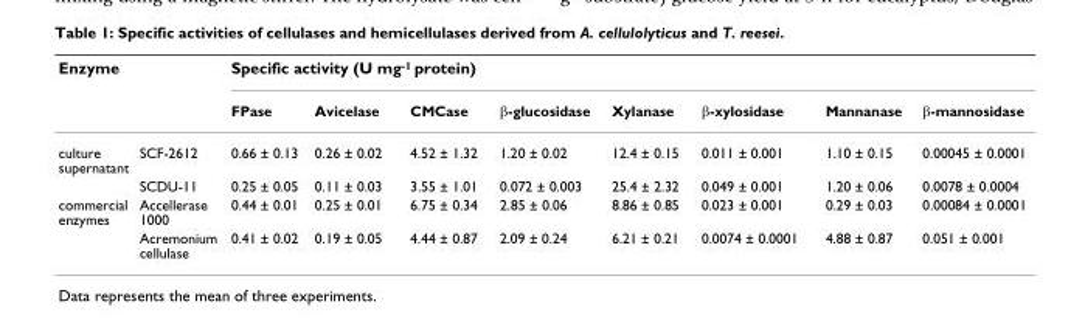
<table><thead><tr><td rowspan="2">Enzyme</td><td rowspan="2"></td><td colspan="8">Specific activity (U mg<sup>-1</sup> protein)</td></tr><tr><td>FPase</td><td>Avicelase</td><td>CMCase</td><td>β-glucosidase</td><td>Xylanase</td><td>β-xylosidase</td><td>Mannanase</td><td>β-mannosidase</td></tr></thead><tbody><tr><td rowspan="2">culture supernatant</td><td>SCF-2612</td><td>0.66 ± 0.13</td><td>0.26 ± 0.02</td><td>4.52 ± 1.32</td><td>1.20 ± 0.02</td><td>12.4 ± 0.15</td><td>0.011 ± 0.001</td><td>1.10 ± 0.15</td><td>0.00045 ± 0.0001</td></tr><tr><td>SCDU-11</td><td>0.25 ± 0.05</td><td>0.11 ± 0.03</td><td>3.55 ± 1.01</td><td>0.072 ± 0.003</td><td>25.4 ± 2.32</td><td>0.049 ± 0.001</td><td>1.20 ± 0.06</td><td>0.0078 ± 0.0004</td></tr><tr><td rowspan="2">commercial enzymes</td><td>Accellerase 1000</td><td>0.44 ± 0.01</td><td>0.25 ± 0.01</td><td>6.75 ± 0.34</td><td>2.85 ± 0.06</td><td>8.86 ± 0.85</td><td>0.023 ± 0.001</td><td>0.29 ± 0.03</td><td>0.00084 ± 0.0001</td></tr><tr><td>Acremonium cellulase</td><td>0.41 ± 0.02</td><td>0.19 ± 0.05</td><td>4.44 ± 0.87</td><td>2.09 ± 0.24</td><td>6.21 ± 0.21</td><td>0.0074 ± 0.0001</td><td>4.88 ± 0.87</td><td>0.051 ± 0.001</td></tr></tbody></table>